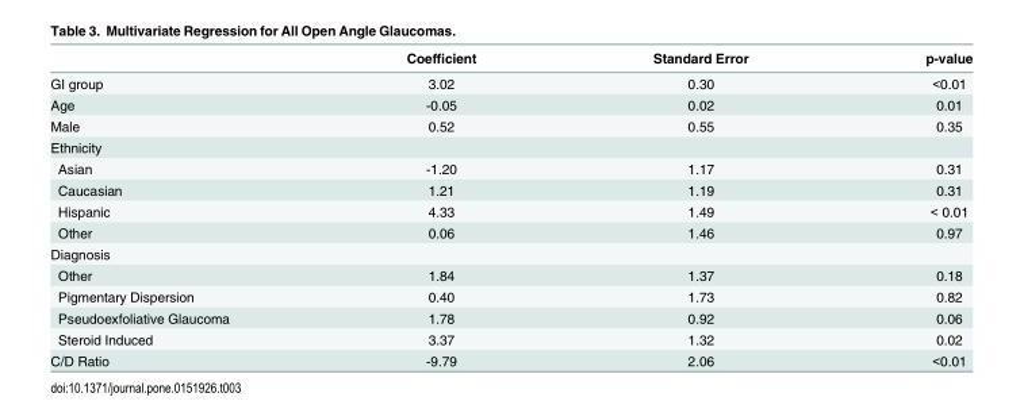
<table><thead><tr><td></td><td>Coefficient</td><td>Standard Error</td><td>p-value</td></tr></thead><tbody><tr><td>GI group</td><td>3.02</td><td>0.30</td><td>&lt;0.01</td></tr><tr><td>Age</td><td>-0.05</td><td>0.02</td><td>0.01</td></tr><tr><td>Male</td><td>0.52</td><td>0.55</td><td>0.35</td></tr><tr><td colspan="4">Ethnicity</td></tr><tr><td>Asian</td><td>-1.20</td><td>1.17</td><td>0.31</td></tr><tr><td>Caucasian</td><td>1.21</td><td>1.19</td><td>0.31</td></tr><tr><td>Hispanic</td><td>4.33</td><td>1.49</td><td>&lt; 0.01</td></tr><tr><td>Other</td><td>0.06</td><td>1.46</td><td>0.97</td></tr><tr><td colspan="4">Diagnosis</td></tr><tr><td>Other</td><td>1.84</td><td>1.37</td><td>0.18</td></tr><tr><td>Pigmentary Dispersion</td><td>0.40</td><td>1.73</td><td>0.82</td></tr><tr><td>Pseudoexfoliative Glaucoma</td><td>1.78</td><td>0.92</td><td>0.06</td></tr><tr><td>Steroid Induced</td><td>3.37</td><td>1.32</td><td>0.02</td></tr><tr><td>C/D Ratio</td><td>-9.79</td><td>2.06</td><td>&lt;0.01</td></tr></tbody></table>